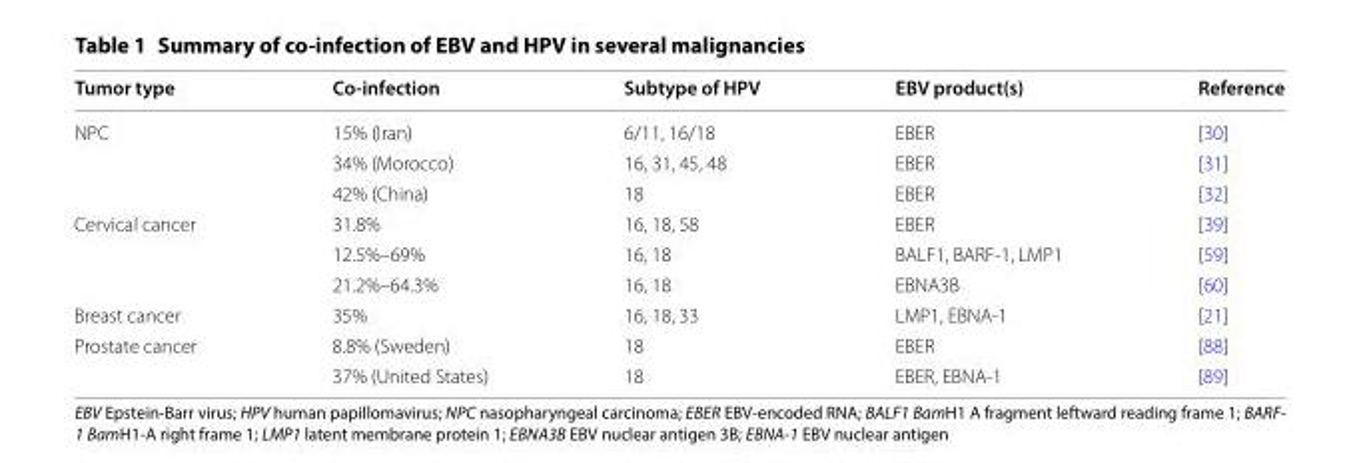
<table><thead><tr><td>Tumor type</td><td>Co-infection</td><td>Subtype of HPV</td><td>EBV product(s)</td><td>Reference</td></tr></thead><tbody><tr><td rowspan="3">NPC</td><td>15% (Iran)</td><td>6/11, 16/18</td><td>EBER</td><td>[30]</td></tr><tr><td>34% (Morocco)</td><td>16, 31, 45, 48</td><td>EBER</td><td>[31]</td></tr><tr><td>42% (China)</td><td>18</td><td>EBER</td><td>[32]</td></tr><tr><td rowspan="3">Cervical cancer</td><td>31.8%</td><td>16, 18, 58</td><td>EBER</td><td>[39]</td></tr><tr><td>12.5%–69%</td><td>16, 18</td><td>BALF1, BARF‑1, LMP1</td><td>[59]</td></tr><tr><td>21.2%–64.3%</td><td>16, 18</td><td>EBNA3B</td><td>[60]</td></tr><tr><td>Breast cancer</td><td>35%</td><td>16, 18, 33</td><td>LMP1, EBNA‑1</td><td>[21]</td></tr><tr><td rowspan="2">Prostate cancer</td><td>8.8% (Sweden)</td><td>18</td><td>EBER</td><td>[88]</td></tr><tr><td>37% (United States)</td><td>18</td><td>EBER, EBNA‑1</td><td>[89]</td></tr></tbody></table>